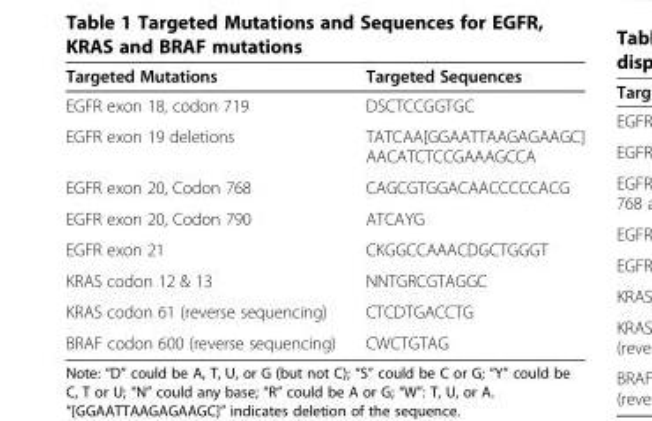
<table><thead><tr><td>Targeted Mutations</td><td>Targeted Sequences</td></tr></thead><tbody><tr><td>EGFR exon 18, codon 719</td><td>DSCTCCGGTGC</td></tr><tr><td>EGFR exon 19 deletions</td><td>TATCAA[GGAATTAAGAGAAGC] AACATCTCCGAAAGCCA</td></tr><tr><td>EGFR exon 20, Codon 768</td><td>CAGCGTGGACAACCCCCACG</td></tr><tr><td>EGFR exon 20, Codon 790</td><td>ATCAYG</td></tr><tr><td>EGFR exon 21</td><td>CKGGCCAAACDGCTGGGT</td></tr><tr><td>KRAS codon 12 &amp; 13</td><td>NNTGRCGTAGGC</td></tr><tr><td>KRAS codon 61 (reverse sequencing)</td><td>CTCDTGACCTG</td></tr><tr><td>BRAF codon 600 (reverse sequencing)</td><td>CWCTGTAG</td></tr></tbody></table>